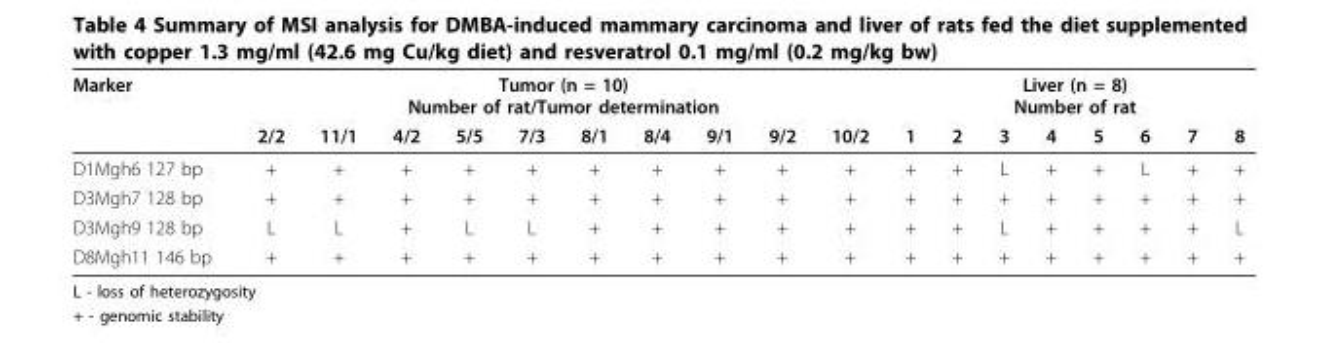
<table><thead><tr><td rowspan="2">Marker</td><td colspan="10">Tumor (n = 10) Number of rat/Tumor determination</td><td colspan="8">Liver (n = 8) Number of rat</td></tr><tr><td>2/2</td><td>11/1</td><td>4/2</td><td>5/5</td><td>7/3</td><td>8/1</td><td>8/4</td><td>9/1</td><td>9/2</td><td>10/2</td><td>1</td><td>2</td><td>3</td><td>4</td><td>5</td><td>6</td><td>7</td><td>8</td></tr></thead><tbody><tr><td>D1Mgh6 127 bp</td><td>+</td><td>+</td><td>+</td><td>+</td><td>+</td><td>+</td><td>+</td><td>+</td><td>+</td><td>+</td><td>+</td><td>+</td><td>L</td><td>+</td><td>+</td><td>L</td><td>+</td><td>+</td></tr><tr><td>D3Mgh7 128 bp</td><td>+</td><td>+</td><td>+</td><td>+</td><td>+</td><td>+</td><td>+</td><td>+</td><td>+</td><td>+</td><td>+</td><td>+</td><td>+</td><td>+</td><td>+</td><td>+</td><td>+</td><td>+</td></tr><tr><td>D3Mgh9 128 bp</td><td>L</td><td>L</td><td>+</td><td>L</td><td>L</td><td>+</td><td>+</td><td>+</td><td>+</td><td>+</td><td>+</td><td>+</td><td>L</td><td>+</td><td>+</td><td>+</td><td>+</td><td>L</td></tr><tr><td>D8Mgh11 146 bp</td><td>+</td><td>+</td><td>+</td><td>+</td><td>+</td><td>+</td><td>+</td><td>+</td><td>+</td><td>+</td><td>+</td><td>+</td><td>+</td><td>+</td><td>+</td><td>+</td><td>+</td><td>+</td></tr></tbody></table>